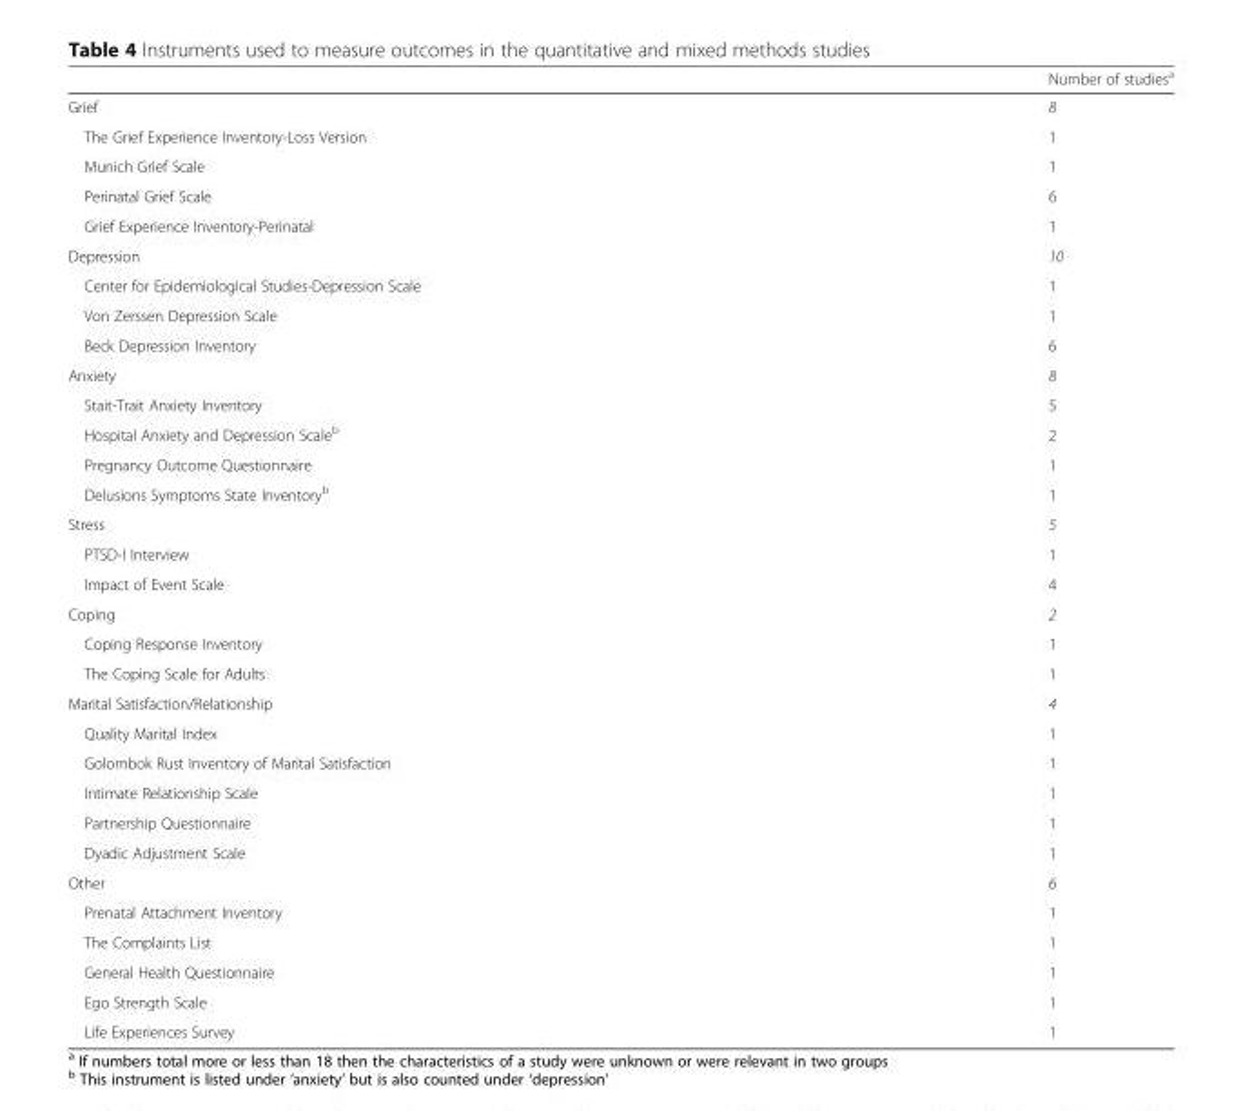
<table><thead><tr><td></td><td>Number of studies<sup>a</sup></td></tr></thead><tbody><tr><td>Grief</td><td>8</td></tr><tr><td>The Grief Experience Inventory-Loss Version</td><td>1</td></tr><tr><td>Munich Grief Scale</td><td>1</td></tr><tr><td>Perinatal Grief Scale</td><td>6</td></tr><tr><td>Grief Experience Inventory-Perinatal</td><td>1</td></tr><tr><td>Depression</td><td>10</td></tr><tr><td>Center for Epidemiological Studies-Depression Scale</td><td>1</td></tr><tr><td>Von Zerssen Depression Scale</td><td>1</td></tr><tr><td>Beck Depression Inventory</td><td>6</td></tr><tr><td>Anxiety</td><td>8</td></tr><tr><td>Stait-Trait Anxiety Inventory</td><td>5</td></tr><tr><td>Hospital Anxiety and Depression Scale<sup>b</sup></td><td>2</td></tr><tr><td>Pregnancy Outcome Questionnaire</td><td>1</td></tr><tr><td>Delusions Symptoms State Inventory<sup>b</sup></td><td>1</td></tr><tr><td>Stress</td><td>5</td></tr><tr><td>PTSD-I Interview</td><td>1</td></tr><tr><td>Impact of Event Scale</td><td>4</td></tr><tr><td>Coping</td><td>2</td></tr><tr><td>Coping Response Inventory</td><td>1</td></tr><tr><td>The Coping Scale for Adults</td><td>1</td></tr><tr><td>Marital Satisfaction/Relationship</td><td>4</td></tr><tr><td>Quality Marital Index</td><td>1</td></tr><tr><td>Golombok Rust Inventory of Marital Satisfaction</td><td>1</td></tr><tr><td>Intimate Relationship Scale</td><td>1</td></tr><tr><td>Partnership Questionnaire</td><td>1</td></tr><tr><td>Dyadic Adjustment Scale</td><td>1</td></tr><tr><td>Other</td><td>6</td></tr><tr><td>Prenatal Attachment Inventory</td><td>1</td></tr><tr><td>The Complaints List</td><td>1</td></tr><tr><td>General Health Questionnaire</td><td>1</td></tr><tr><td>Ego Strength Scale</td><td>1</td></tr><tr><td>Life Experiences Survey</td><td>1</td></tr></tbody></table>